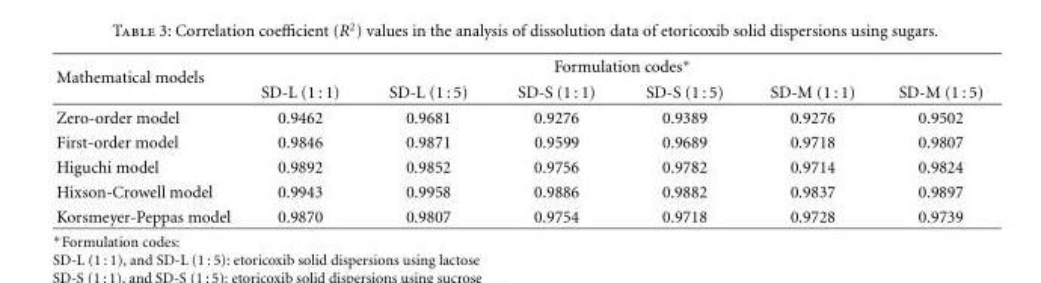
<table><thead><tr><td rowspan="2">Mathematical models</td><td colspan="6">Formulation codes∗</td></tr><tr><td>SD-L (1 : 1)</td><td>SD-L (1 : 5)</td><td>SD-S (1 : 1)</td><td>SD-S (1 : 5)</td><td>SD-M (1 : 1)</td><td>SD-M (1 : 5)</td></tr></thead><tbody><tr><td>Zero-order model</td><td>0.9462</td><td>0.9681</td><td>0.9276</td><td>0.9389</td><td>0.9276</td><td>0.9502</td></tr><tr><td>First-order model</td><td>0.9846</td><td>0.9871</td><td>0.9599</td><td>0.9689</td><td>0.9718</td><td>0.9807</td></tr><tr><td>Higuchi model</td><td>0.9892</td><td>0.9852</td><td>0.9756</td><td>0.9782</td><td>0.9714</td><td>0.9824</td></tr><tr><td>Hixson-Crowell model</td><td>0.9943</td><td>0.9958</td><td>0.9886</td><td>0.9882</td><td>0.9837</td><td>0.9897</td></tr><tr><td>Korsmeyer-Peppas model</td><td>0.9870</td><td>0.9807</td><td>0.9754</td><td>0.9718</td><td>0.9728</td><td>0.9739</td></tr></tbody></table>